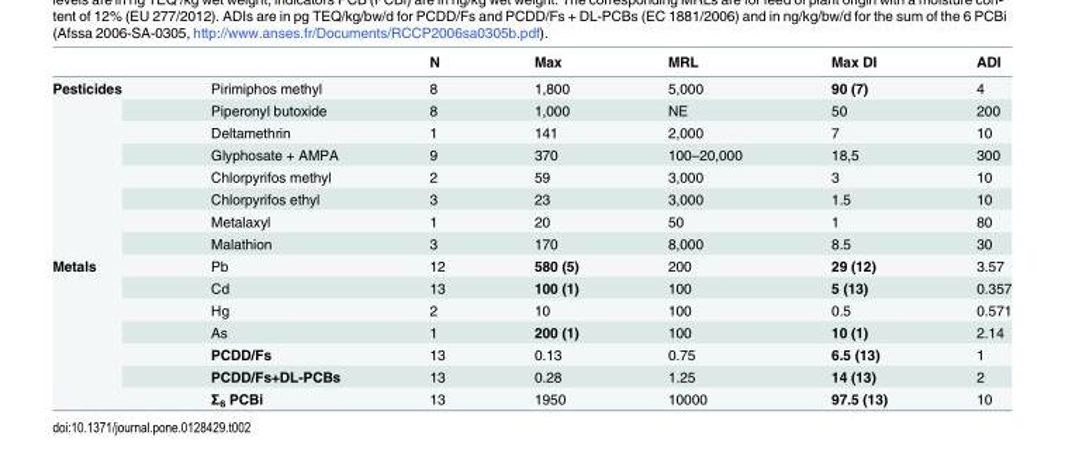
<table><thead><tr><td></td><td></td><td>N</td><td>Max</td><td>MRL</td><td>Max DI</td><td>ADI</td></tr></thead><tbody><tr><td rowspan="8">Pesticides</td><td>Pirimiphos methyl</td><td>8</td><td>1,800</td><td>5,000</td><td>90 (7)</td><td>4</td></tr><tr><td>Piperonyl butoxide</td><td>8</td><td>1,000</td><td>NE</td><td>50</td><td>200</td></tr><tr><td>Deltamethrin</td><td>1</td><td>141</td><td>2,000</td><td>7</td><td>10</td></tr><tr><td>Glyphosate + AMPA</td><td>9</td><td>370</td><td>100–20,000</td><td>18,5</td><td>300</td></tr><tr><td>Chlorpyrifos methyl</td><td>2</td><td>59</td><td>3,000</td><td>3</td><td>10</td></tr><tr><td>Chlorpyrifos ethyl</td><td>3</td><td>23</td><td>3,000</td><td>1.5</td><td>10</td></tr><tr><td>Metalaxyl</td><td>1</td><td>20</td><td>50</td><td>1</td><td>80</td></tr><tr><td>Malathion</td><td>3</td><td>170</td><td>8,000</td><td>8.5</td><td>30</td></tr><tr><td rowspan="7">Metals</td><td>Pb</td><td>12</td><td>580 (5)</td><td>200</td><td>29 (12)</td><td>3.57</td></tr><tr><td>Cd</td><td>13</td><td>100 (1)</td><td>100</td><td>5 (13)</td><td>0.357</td></tr><tr><td>Hg</td><td>2</td><td>10</td><td>100</td><td>0.5</td><td>0.571</td></tr><tr><td>As</td><td>1</td><td>200 (1)</td><td>100</td><td>10 (1)</td><td>2.14</td></tr><tr><td>PCDD/Fs</td><td>13</td><td>0.13</td><td>0.75</td><td>6.5 (13)</td><td>1</td></tr><tr><td>PCDD/Fs+DL-PCBs</td><td>13</td><td>0.28</td><td>1.25</td><td>14 (13)</td><td>2</td></tr><tr><td>Σ<sub>6</sub> PCBi</td><td>13</td><td>1950</td><td>10000</td><td>97.5 (13)</td><td>10</td></tr></tbody></table>